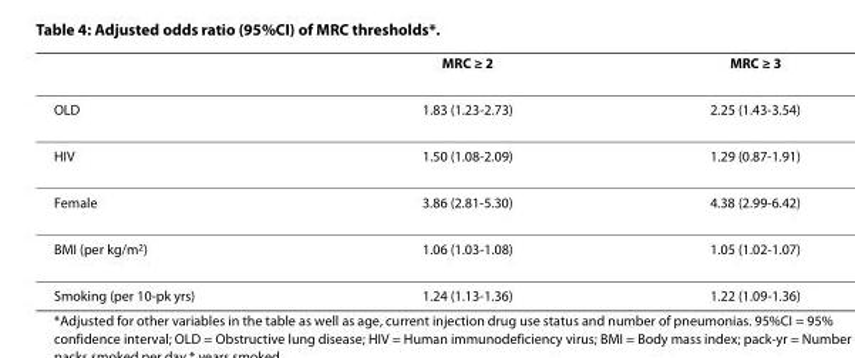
<table><thead><tr><td></td><td>MRC ≥ 2</td><td>MRC ≥ 3</td></tr></thead><tbody><tr><td>OLD</td><td>1.83 (1.23-2.73)</td><td>2.25 (1.43-3.54)</td></tr><tr><td>HIV</td><td>1.50 (1.08-2.09)</td><td>1.29 (0.87-1.91)</td></tr><tr><td>Female</td><td>3.86 (2.81-5.30)</td><td>4.38 (2.99-6.42)</td></tr><tr><td>BMI (per kg/m<sup>2</sup>)</td><td>1.06 (1.03-1.08)</td><td>1.05 (1.02-1.07)</td></tr><tr><td>Smoking (per 10-pk yrs)</td><td>1.24 (1.13-1.36)</td><td>1.22 (1.09-1.36)</td></tr></tbody></table>